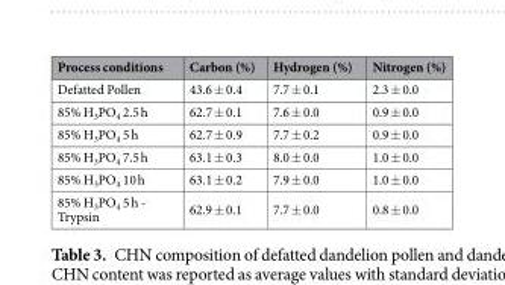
<table><thead><tr><td>Process conditions</td><td>Carbon (%)</td><td>Hydrogen (%)</td><td>Nitrogen (%)</td></tr></thead><tbody><tr><td>Defatted Pollen</td><td>43.6 ± 0.4</td><td>7.7 ± 0.1</td><td>2.3 ± 0.0</td></tr><tr><td>85% H<sub>3</sub>PO<sub>4</sub> 2.5 h</td><td>62.7 ± 0.1</td><td>7.6 ± 0.0</td><td>0.9 ± 0.0</td></tr><tr><td>85% H<sub>3</sub>PO<sub>4</sub> 5 h</td><td>62.7 ± 0.9</td><td>7.7 ± 0.2</td><td>0.9 ± 0.0</td></tr><tr><td>85% H<sub>3</sub>PO<sub>4</sub> 7.5 h</td><td>63.1 ± 0.3</td><td>8.0 ± 0.0</td><td>1.0 ± 0.0</td></tr><tr><td>85% H<sub>3</sub>PO<sub>4</sub> 10 h</td><td>63.1 ± 0.2</td><td>7.9 ± 0.0</td><td>1.0 ± 0.0</td></tr><tr><td>85% H<sub>3</sub>PO<sub>4</sub> 5 h - Trypsin</td><td>62.9 ± 0.1</td><td>7.7 ± 0.0</td><td>0.8 ± 0.0</td></tr></tbody></table>